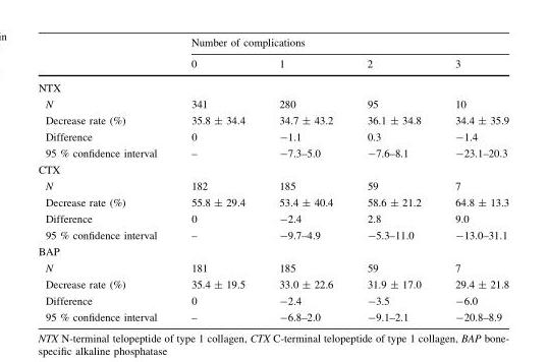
<table><thead><tr><td rowspan="2"></td><td colspan="4">Number of complications</td></tr><tr><td>0</td><td>1</td><td>2</td><td>3</td></tr></thead><tbody><tr><td colspan="5">NTX</td></tr><tr><td>N</td><td>341</td><td>280</td><td>95</td><td>10</td></tr><tr><td>Decrease rate (%)</td><td>35.8 ± 34.4</td><td>34.7 ± 43.2</td><td>36.1 ± 34.8</td><td>34.4 ± 35.9</td></tr><tr><td>Difference</td><td>0</td><td>-1.1</td><td>0.3</td><td>-1.4</td></tr><tr><td>95 % confidence interval</td><td>–</td><td>-7.3–5.0</td><td>-7.6–8.1</td><td>-23.1–20.3</td></tr><tr><td colspan="5">CTX</td></tr><tr><td>N</td><td>182</td><td>185</td><td>59</td><td>7</td></tr><tr><td>Decrease rate (%)</td><td>55.8 ± 29.4</td><td>53.4 ± 40.4</td><td>58.6 ± 21.2</td><td>64.8 ± 13.3</td></tr><tr><td>Difference</td><td>0</td><td>-2.4</td><td>2.8</td><td>9.0</td></tr><tr><td>95 % confidence interval</td><td>–</td><td>-9.7–4.9</td><td>-5.3–11.0</td><td>-13.0–31.1</td></tr><tr><td colspan="5">BAP</td></tr><tr><td>N</td><td>181</td><td>185</td><td>59</td><td>7</td></tr><tr><td>Decrease rate (%)</td><td>35.4 ± 19.5</td><td>33.0 ± 22.6</td><td>31.9 ± 17.0</td><td>29.4 ± 21.8</td></tr><tr><td>Difference</td><td>0</td><td>-2.4</td><td>-3.5</td><td>-6.0</td></tr><tr><td>95 % confidence interval</td><td>–</td><td>-6.8–2.0</td><td>-9.1–2.1</td><td>-20.8–8.9</td></tr></tbody></table>